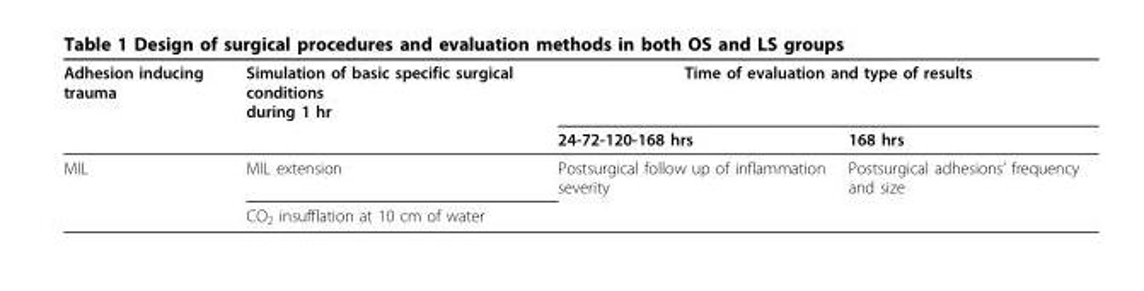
<table><thead><tr><td rowspan="2">Adhesion inducing trauma</td><td rowspan="2">Simulation of basic specific surgical conditions during 1 hr</td><td colspan="2">Time of evaluation and type of results</td></tr><tr><td>24-72-120-168 hrs</td><td>168 hrs</td></tr></thead><tbody><tr><td rowspan="2">MIL</td><td>MIL extension</td><td>Postsurgical follow up of inflammation severity</td><td>Postsurgical adhesions’ frequency and size</td></tr><tr><td>CO<sub>2</sub> insufflation at 10 cm of water</td><td></td><td></td></tr></tbody></table>